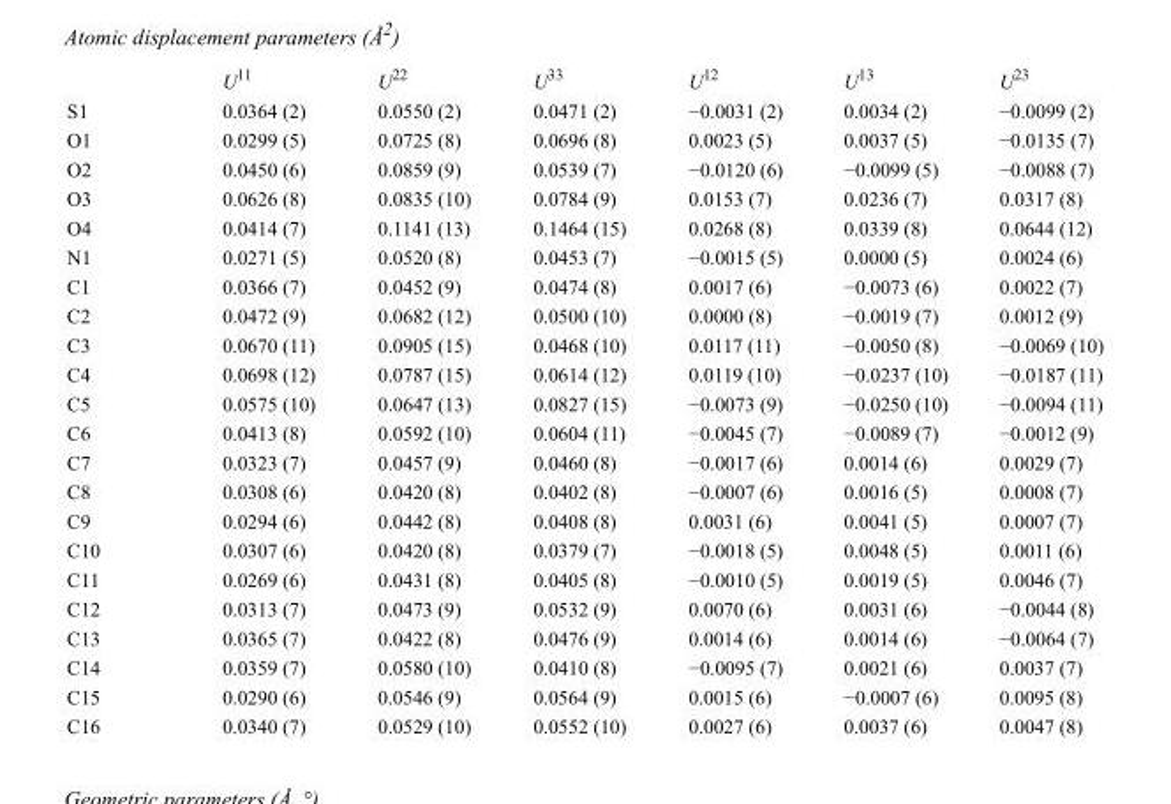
<table><thead><tr><td></td><td>U<sup>11</sup></td><td>U<sup>22</sup></td><td>U<sup>33</sup></td><td>U<sup>12</sup></td><td>U<sup>13</sup></td><td>U<sup>23</sup></td></tr></thead><tbody><tr><td>S1</td><td>0.0364 (2)</td><td>0.0550 (2)</td><td>0.0471 (2)</td><td>−0.0031 (2)</td><td>0.0034 (2)</td><td>−0.0099 (2)</td></tr><tr><td>O1</td><td>0.0299 (5)</td><td>0.0725 (8)</td><td>0.0696 (8)</td><td>0.0023 (5)</td><td>0.0037 (5)</td><td>−0.0135 (7)</td></tr><tr><td>O2</td><td>0.0450 (6)</td><td>0.0859 (9)</td><td>0.0539 (7)</td><td>−0.0120 (6)</td><td>−0.0099 (5)</td><td>−0.0088 (7)</td></tr><tr><td>O3</td><td>0.0626 (8)</td><td>0.0835 (10)</td><td>0.0784 (9)</td><td>0.0153 (7)</td><td>0.0236 (7)</td><td>0.0317 (8)</td></tr><tr><td>O4</td><td>0.0414 (7)</td><td>0.1141 (13)</td><td>0.1464 (15)</td><td>0.0268 (8)</td><td>0.0339 (8)</td><td>0.0644 (12)</td></tr><tr><td>N1</td><td>0.0271 (5)</td><td>0.0520 (8)</td><td>0.0453 (7)</td><td>−0.0015 (5)</td><td>0.0000 (5)</td><td>0.0024 (6)</td></tr><tr><td>C1</td><td>0.0366 (7)</td><td>0.0452 (9)</td><td>0.0474 (8)</td><td>0.0017 (6)</td><td>−0.0073 (6)</td><td>0.0022 (7)</td></tr><tr><td>C2</td><td>0.0472 (9)</td><td>0.0682 (12)</td><td>0.0500 (10)</td><td>0.0000 (8)</td><td>−0.0019 (7)</td><td>0.0012 (9)</td></tr><tr><td>C3</td><td>0.0670 (11)</td><td>0.0905 (15)</td><td>0.0468 (10)</td><td>0.0117 (11)</td><td>−0.0050 (8)</td><td>−0.0069 (10)</td></tr><tr><td>C4</td><td>0.0698 (12)</td><td>0.0787 (15)</td><td>0.0614 (12)</td><td>0.0119 (10)</td><td>−0.0237 (10)</td><td>−0.0187 (11)</td></tr><tr><td>C5</td><td>0.0575 (10)</td><td>0.0647 (13)</td><td>0.0827 (15)</td><td>−0.0073 (9)</td><td>−0.0250 (10)</td><td>−0.0094 (11)</td></tr><tr><td>C6</td><td>0.0413 (8)</td><td>0.0592 (10)</td><td>0.0604 (11)</td><td>−0.0045 (7)</td><td>−0.0089 (7)</td><td>−0.0012 (9)</td></tr><tr><td>C7</td><td>0.0323 (7)</td><td>0.0457 (9)</td><td>0.0460 (8)</td><td>−0.0017 (6)</td><td>0.0014 (6)</td><td>0.0029 (7)</td></tr><tr><td>C8</td><td>0.0308 (6)</td><td>0.0420 (8)</td><td>0.0402 (8)</td><td>−0.0007 (6)</td><td>0.0016 (5)</td><td>0.0008 (7)</td></tr><tr><td>C9</td><td>0.0294 (6)</td><td>0.0442 (8)</td><td>0.0408 (8)</td><td>0.0031 (6)</td><td>0.0041 (5)</td><td>0.0007 (7)</td></tr><tr><td>C10</td><td>0.0307 (6)</td><td>0.0420 (8)</td><td>0.0379 (7)</td><td>−0.0018 (5)</td><td>0.0048 (5)</td><td>0.0011 (6)</td></tr><tr><td>C11</td><td>0.0269 (6)</td><td>0.0431 (8)</td><td>0.0405 (8)</td><td>−0.0010 (5)</td><td>0.0019 (5)</td><td>0.0046 (7)</td></tr><tr><td>C12</td><td>0.0313 (7)</td><td>0.0473 (9)</td><td>0.0532 (9)</td><td>0.0070 (6)</td><td>0.0031 (6)</td><td>−0.0044 (8)</td></tr><tr><td>C13</td><td>0.0365 (7)</td><td>0.0422 (8)</td><td>0.0476 (9)</td><td>0.0014 (6)</td><td>0.0014 (6)</td><td>−0.0064 (7)</td></tr><tr><td>C14</td><td>0.0359 (7)</td><td>0.0580 (10)</td><td>0.0410 (8)</td><td>−0.0095 (7)</td><td>0.0021 (6)</td><td>0.0037 (7)</td></tr><tr><td>C15</td><td>0.0290 (6)</td><td>0.0546 (9)</td><td>0.0564 (9)</td><td>0.0015 (6)</td><td>−0.0007 (6)</td><td>0.0095 (8)</td></tr><tr><td>C16</td><td>0.0340 (7)</td><td>0.0529 (10)</td><td>0.0552 (10)</td><td>0.0027 (6)</td><td>0.0037 (6)</td><td>0.0047 (8)</td></tr></tbody></table>